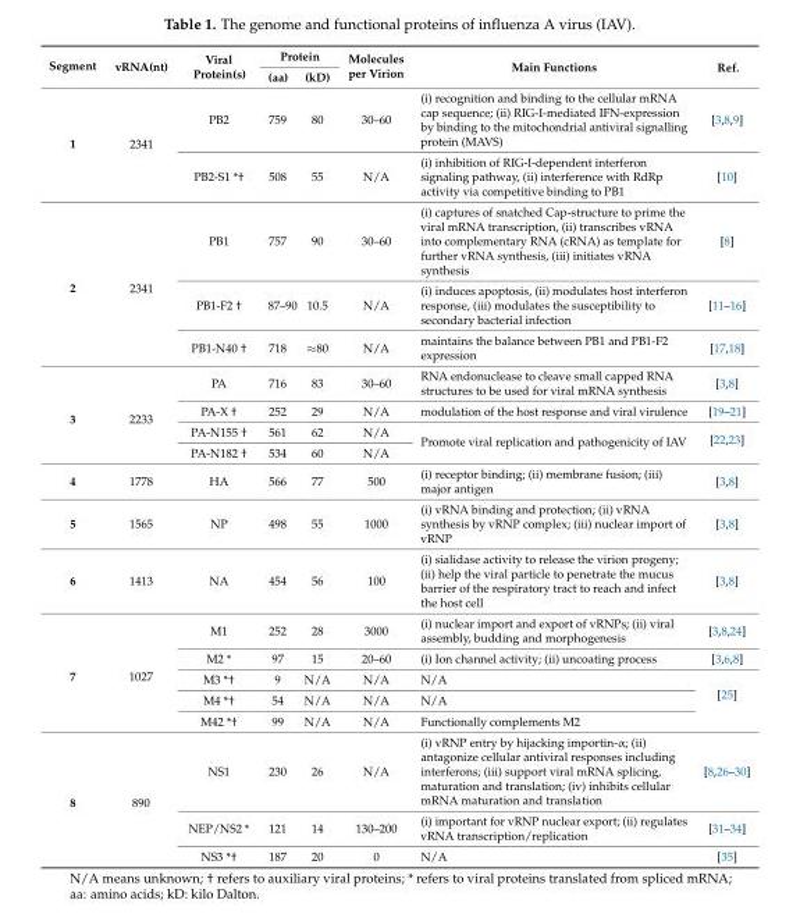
<table><thead><tr><td rowspan="2">Segment</td><td rowspan="2">vRNA(nt)</td><td rowspan="2">Viral Protein(s)</td><td colspan="2">Protein</td><td rowspan="2">Molecules per Virion</td><td rowspan="2">Main Functions</td><td rowspan="2">Ref.</td></tr><tr><td>(aa)</td><td>(kD)</td></tr></thead><tbody><tr><td rowspan="2">1</td><td rowspan="2">2341</td><td>PB2</td><td>759</td><td>80</td><td>30–60</td><td>(i) recognition and binding to the cellular mRNA cap sequence; (ii) RIG-I-mediated IFN-expression by binding to the mitochondrial antiviral signalling protein (MAVS)</td><td>[3,8,9]</td></tr><tr><td>PB2-S1 *†</td><td>508</td><td>55</td><td>N/A</td><td>(i) inhibition of RIG-I-dependent interferon signaling pathway, (ii) interference with RdRp activity via competitive binding to PB1</td><td>[10]</td></tr><tr><td rowspan="3">2</td><td rowspan="3">2341</td><td>PB1</td><td>757</td><td>90</td><td>30–60</td><td>(i) captures of snatched Cap-structure to prime the viral mRNA transcription, (ii) transcribes vRNA into complementary RNA (cRNA) as template for further vRNA synthesis, (iii) initiates vRNA synthesis</td><td>[8]</td></tr><tr><td>PB1-F2 †</td><td>87–90</td><td>10.5</td><td>N/A</td><td>(i) induces apoptosis, (ii) modulates host interferon response, (iii) modulates the susceptibility to secondary bacterial infection</td><td>[11–16]</td></tr><tr><td>PB1-N40 †</td><td>718</td><td>≈80</td><td>N/A</td><td>maintains the balance between PB1 and PB1-F2 expression</td><td>[17,18]</td></tr><tr><td rowspan="4">3</td><td rowspan="4">2233</td><td>PA</td><td>716</td><td>83</td><td>30–60</td><td>RNA endonuclease to cleave small capped RNA structures to be used for viral mRNA synthesis</td><td>[3,8]</td></tr><tr><td>PA-X †</td><td>252</td><td>29</td><td>N/A</td><td>modulation of the host response and viral virulence</td><td>[19–21]</td></tr><tr><td>PA-N155 †</td><td>561</td><td>62</td><td>N/A</td><td rowspan="2">Promote viral replication and pathogenicity of IAV</td><td rowspan="2">[22,23]</td></tr><tr><td>PA-N182 †</td><td>534</td><td>60</td><td>N/A</td></tr><tr><td>4</td><td>1778</td><td>HA</td><td>566</td><td>77</td><td>500</td><td>(i) receptor binding; (ii) membrane fusion; (iii) major antigen</td><td>[3,8]</td></tr><tr><td>5</td><td>1565</td><td>NP</td><td>498</td><td>55</td><td>1000</td><td>(i) vRNA binding and protection; (ii) vRNA synthesis by vRNP complex; (iii) nuclear import of vRNP</td><td>[3,8]</td></tr><tr><td>6</td><td>1413</td><td>NA</td><td>454</td><td>56</td><td>100</td><td>(i) sialidase activity to release the virion progeny; (ii) help the viral particle to penetrate the mucus barrier of the respiratory tract to reach and infect the host cell</td><td>[3,8]</td></tr><tr><td rowspan="5">7</td><td rowspan="5">1027</td><td>M1</td><td>252</td><td>28</td><td>3000</td><td>(i) nuclear import and export of vRNPs; (ii) viral assembly, budding and morphogenesis</td><td>[3,8,24]</td></tr><tr><td>M2 *</td><td>97</td><td>15</td><td>20–60</td><td>(i) Ion channel activity; (ii) uncoating process</td><td>[3,6,8]</td></tr><tr><td>M3 *†</td><td>9</td><td>N/A</td><td>N/A</td><td>N/A</td><td rowspan="3">[25]</td></tr><tr><td>M4 *†</td><td>54</td><td>N/A</td><td>N/A</td><td>N/A</td></tr><tr><td>M42 *†</td><td>99</td><td>N/A</td><td>N/A</td><td>Functionally complements M2</td></tr><tr><td rowspan="3">8</td><td rowspan="3">890</td><td>NS1</td><td>230</td><td>26</td><td>N/A</td><td>(i) vRNP entry by hijacking importin-α; (ii) antagonize cellular antiviral responses including interferons; (iii) support viral mRNA splicing, maturation and translation; (iv) inhibits cellular mRNA maturation and translation</td><td>[8,26–30]</td></tr><tr><td>NEP/NS2 *</td><td>121</td><td>14</td><td>130–200</td><td>(i) important for vRNP nuclear export; (ii) regulates vRNA transcription/replication</td><td>[31–34]</td></tr><tr><td>NS3 *†</td><td>187</td><td>20</td><td>0</td><td>N/A</td><td>[35]</td></tr></tbody></table>